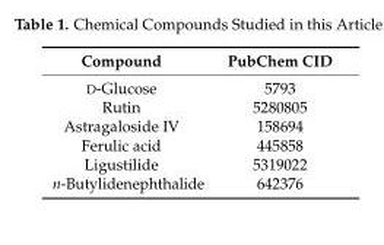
<table><thead><tr><td>Compound</td><td>PubChem CID</td></tr></thead><tbody><tr><td>D-Glucose</td><td>5793</td></tr><tr><td>Rutin</td><td>5280805</td></tr><tr><td>Astragaloside IV</td><td>158694</td></tr><tr><td>Ferulic acid</td><td>445858</td></tr><tr><td>Ligustilide</td><td>5319022</td></tr><tr><td>n-Butylidenephthalide</td><td>642376</td></tr></tbody></table>